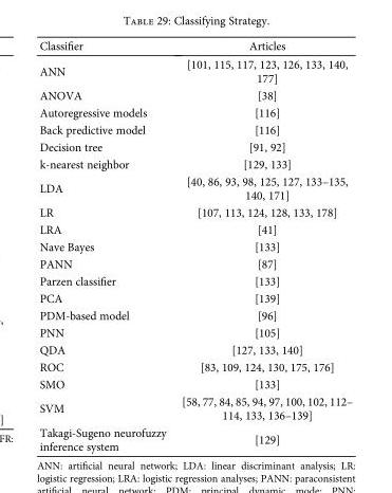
<table><thead><tr><td>Classifier</td><td>Articles</td></tr></thead><tbody><tr><td>ANN</td><td>[101, 115, 117, 123, 126, 133, 140, 177]</td></tr><tr><td>ANOVA</td><td>[38]</td></tr><tr><td>Autoregressive models</td><td>[116]</td></tr><tr><td>Back predictive model</td><td>[116]</td></tr><tr><td>Decision tree</td><td>[91, 92]</td></tr><tr><td>k-nearest neighbor</td><td>[129, 133]</td></tr><tr><td>LDA</td><td>[40, 86, 93, 98, 125, 127, 133–135, 140, 171]</td></tr><tr><td>LR</td><td>[107, 113, 124, 128, 133, 178]</td></tr><tr><td>LRA</td><td>[41]</td></tr><tr><td>Nave Bayes</td><td>[133]</td></tr><tr><td>PANN</td><td>[87]</td></tr><tr><td>Parzen classifier</td><td>[133]</td></tr><tr><td>PCA</td><td>[139]</td></tr><tr><td>PDM-based model</td><td>[96]</td></tr><tr><td>PNN</td><td>[105]</td></tr><tr><td>QDA</td><td>[127, 133, 140]</td></tr><tr><td>ROC</td><td>[83, 109, 124, 130, 175, 176]</td></tr><tr><td>SMO</td><td>[133]</td></tr><tr><td>SVM</td><td>[58, 77, 84, 85, 94, 97, 100, 102, 112– 114, 133, 136–139]</td></tr><tr><td>Takagi-Sugeno neurofuzzy inference system</td><td>[129]</td></tr></tbody></table>